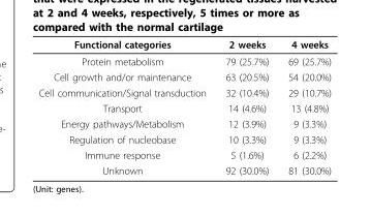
<table><thead><tr><td>Functional categories</td><td>2 weeks</td><td>4 weeks</td></tr></thead><tbody><tr><td>Protein metabolism</td><td>79 (25.7%)</td><td>69 (25.7%)</td></tr><tr><td>Cell growth and/or maintenance</td><td>63 (20.5%)</td><td>54 (20.0%)</td></tr><tr><td>Cell communication/Signal transduction</td><td>32 (10.4%)</td><td>29 (10.7%)</td></tr><tr><td>Transport</td><td>14 (4.6%)</td><td>13 (4.8%)</td></tr><tr><td>Energy pathways/Metabolism</td><td>12 (3.9%)</td><td>9 (3.3%)</td></tr><tr><td>Regulation of nucleobase</td><td>10 (3.3%)</td><td>9 (3.3%)</td></tr><tr><td>Immune response</td><td>5 (1.6%)</td><td>6 (2.2%)</td></tr><tr><td>Unknown</td><td>92 (30.0%)</td><td>81 (30.0%)</td></tr></tbody></table>